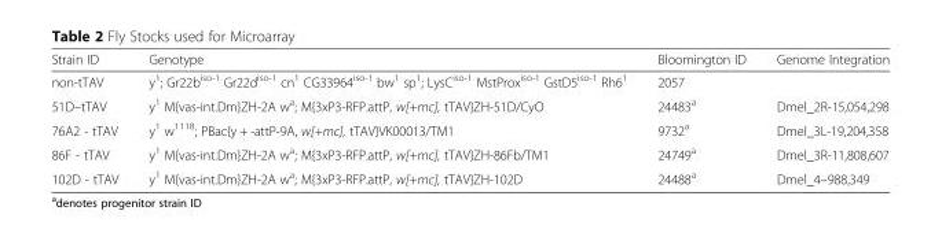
<table><thead><tr><td>Strain ID</td><td>Genotype</td><td>Bloomington ID</td><td>Genome Integration</td></tr></thead><tbody><tr><td>non-tTAV</td><td>y<sup>1</sup>; Gr22b<sup>iso-1</sup> Gr22d<sup>iso-1</sup> cn<sup>1</sup> CG33964<sup>iso-1</sup> bw<sup>1</sup> sp<sup>1</sup>; LysC<sup>iso-1</sup> MstProx<sup>iso-1</sup> GstD5<sup>iso-1</sup> Rh6<sup>1</sup></td><td>2057</td><td></td></tr><tr><td>51D–tTAV</td><td>y<sup>1</sup> M{vas-int.Dm}ZH-2A w<sup>a</sup>; M{3xP3-RFP.attP, w[+mc], tTAV}ZH-51D/CyO</td><td>24483<sup>a</sup></td><td>Dmel_2R-15,054,298</td></tr><tr><td>76A2 - tTAV</td><td>y<sup>1</sup> w<sup>1118</sup>; PBac{y + -attP-9A, w[+mc], tTAV}VK00013/TM1</td><td>9732<sup>a</sup></td><td>Dmel_3L-19,204,358</td></tr><tr><td>86F - tTAV</td><td>y<sup>1</sup> M{vas-int.Dm}ZH-2A w<sup>a</sup>; M{3xP3-RFP.attP, w[+mc], tTAV}ZH-86Fb/TM1</td><td>24749<sup>a</sup></td><td>Dmel_3R-11,808,607</td></tr><tr><td>102D - tTAV</td><td>y<sup>1</sup> M{vas-int.Dm}ZH-2A w<sup>a</sup>; M{3xP3-RFP.attP, w[+mc], tTAV}ZH-102D</td><td>24488<sup>a</sup></td><td>Dmel_4–988,349</td></tr></tbody></table>